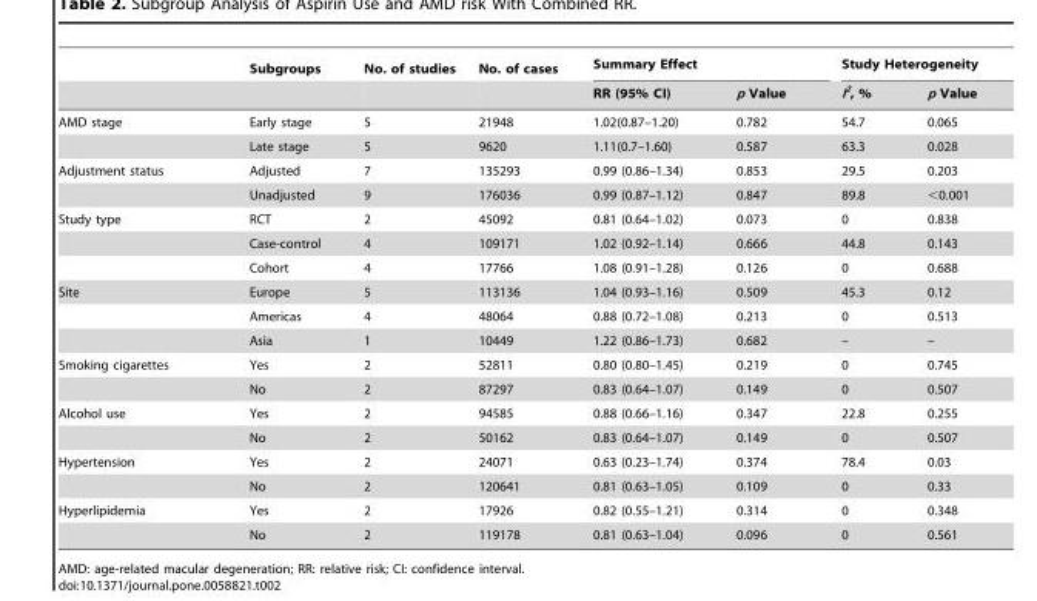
<table><thead><tr><td rowspan="2"></td><td rowspan="2">Subgroups</td><td rowspan="2">No. of studies</td><td rowspan="2">No. of cases</td><td colspan="2">Summary Effect</td><td colspan="2">Study Heterogeneity</td></tr><tr><td>RR (95% CI)</td><td>p Value</td><td>I<sup>2</sup>, %</td><td>p Value</td></tr></thead><tbody><tr><td rowspan="2">AMD stage</td><td>Early stage</td><td>5</td><td>21948</td><td>1.02(0.87–1.20)</td><td>0.782</td><td>54.7</td><td>0.065</td></tr><tr><td>Late stage</td><td>5</td><td>9620</td><td>1.11(0.7–1.60)</td><td>0.587</td><td>63.3</td><td>0.028</td></tr><tr><td rowspan="2">Adjustment status</td><td>Adjusted</td><td>7</td><td>135293</td><td>0.99 (0.86–1.34)</td><td>0.853</td><td>29.5</td><td>0.203</td></tr><tr><td>Unadjusted</td><td>9</td><td>176036</td><td>0.99 (0.87–1.12)</td><td>0.847</td><td>89.8</td><td>&lt;0.001</td></tr><tr><td rowspan="3">Study type</td><td>RCT</td><td>2</td><td>45092</td><td>0.81 (0.64–1.02)</td><td>0.073</td><td>0</td><td>0.838</td></tr><tr><td>Case-control</td><td>4</td><td>109171</td><td>1.02 (0.92–1.14)</td><td>0.666</td><td>44.8</td><td>0.143</td></tr><tr><td>Cohort</td><td>4</td><td>17766</td><td>1.08 (0.91–1.28)</td><td>0.126</td><td>0</td><td>0.688</td></tr><tr><td rowspan="3">Site</td><td>Europe</td><td>5</td><td>113136</td><td>1.04 (0.93–1.16)</td><td>0.509</td><td>45.3</td><td>0.12</td></tr><tr><td>Americas</td><td>4</td><td>48064</td><td>0.88 (0.72–1.08)</td><td>0.213</td><td>0</td><td>0.513</td></tr><tr><td>Asia</td><td>1</td><td>10449</td><td>1.22 (0.86–1.73)</td><td>0.682</td><td>–</td><td>–</td></tr><tr><td rowspan="2">Smoking cigarettes</td><td>Yes</td><td>2</td><td>52811</td><td>0.80 (0.80–1.45)</td><td>0.219</td><td>0</td><td>0.745</td></tr><tr><td>No</td><td>2</td><td>87297</td><td>0.83 (0.64–1.07)</td><td>0.149</td><td>0</td><td>0.507</td></tr><tr><td rowspan="2">Alcohol use</td><td>Yes</td><td>2</td><td>94585</td><td>0.88 (0.66–1.16)</td><td>0.347</td><td>22.8</td><td>0.255</td></tr><tr><td>No</td><td>2</td><td>50162</td><td>0.83 (0.64–1.07)</td><td>0.149</td><td>0</td><td>0.507</td></tr><tr><td rowspan="2">Hypertension</td><td>Yes</td><td>2</td><td>24071</td><td>0.63 (0.23–1.74)</td><td>0.374</td><td>78.4</td><td>0.03</td></tr><tr><td>No</td><td>2</td><td>120641</td><td>0.81 (0.63–1.05)</td><td>0.109</td><td>0</td><td>0.33</td></tr><tr><td rowspan="2">Hyperlipidemia</td><td>Yes</td><td>2</td><td>17926</td><td>0.82 (0.55–1.21)</td><td>0.314</td><td>0</td><td>0.348</td></tr><tr><td>No</td><td>2</td><td>119178</td><td>0.81 (0.63–1.04)</td><td>0.096</td><td>0</td><td>0.561</td></tr></tbody></table>